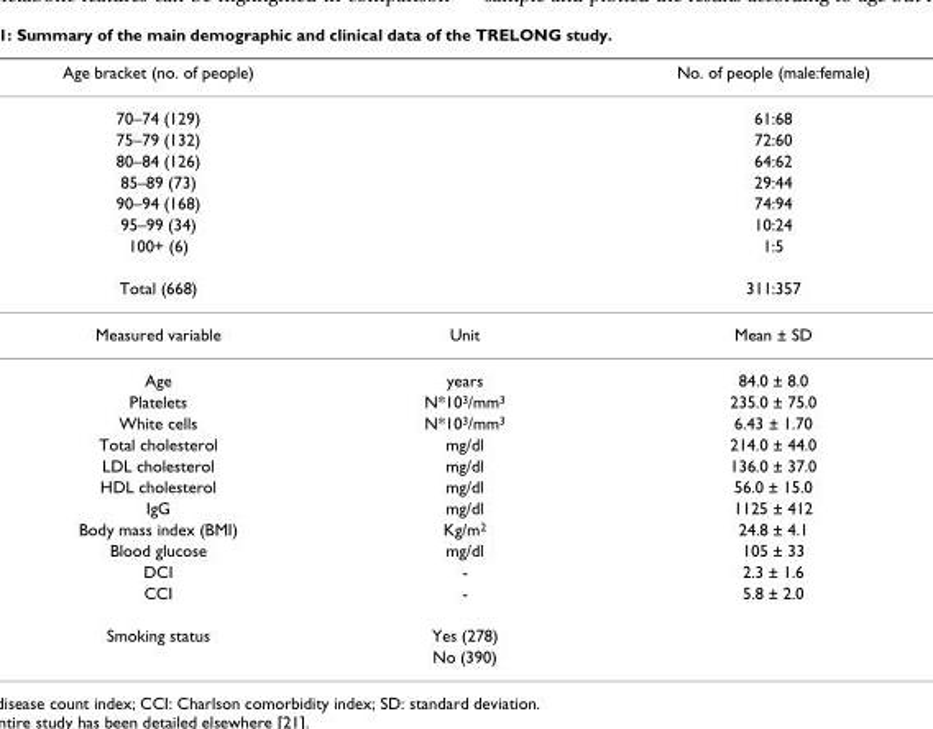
<table><thead><tr><td>Age bracket (no. of people)</td><td></td><td>No. of people (male:female)</td></tr></thead><tbody><tr><td>70–74 (129)</td><td></td><td>61:68</td></tr><tr><td>75–79 (132)</td><td></td><td>72:60</td></tr><tr><td>80–84 (126)</td><td></td><td>64:62</td></tr><tr><td>85–89 (73)</td><td></td><td>29:44</td></tr><tr><td>90–94 (168)</td><td></td><td>74:94</td></tr><tr><td>95–99 (34)</td><td></td><td>10:24</td></tr><tr><td>100+ (6)</td><td></td><td>1:5</td></tr><tr><td>Total (668)</td><td></td><td>311:357</td></tr><tr><td>Measured variable</td><td>Unit</td><td>Mean ± SD</td></tr><tr><td>Age</td><td>years</td><td>84.0 ± 8.0</td></tr><tr><td>Platelets</td><td>N*10<sup>3</sup>/mm<sup>3</sup></td><td>235.0 ± 75.0</td></tr><tr><td>White cells</td><td>N*10<sup>3</sup>/mm<sup>3</sup></td><td>6.43 ± 1.70</td></tr><tr><td>Total cholesterol</td><td>mg/dl</td><td>214.0 ± 44.0</td></tr><tr><td>LDL cholesterol</td><td>mg/dl</td><td>136.0 ± 37.0</td></tr><tr><td>HDL cholesterol</td><td>mg/dl</td><td>56.0 ± 15.0</td></tr><tr><td>IgG</td><td>mg/dl</td><td>1125 ± 412</td></tr><tr><td>Body mass index (BMI)</td><td>Kg/m<sup>2</sup></td><td>24.8 ± 4.1</td></tr><tr><td>Blood glucose</td><td>mg/dl</td><td>105 ± 33</td></tr><tr><td>DCI</td><td>-</td><td>2.3 ± 1.6</td></tr><tr><td>CCI</td><td>-</td><td>5.8 ± 2.0</td></tr><tr><td rowspan="2">Smoking status</td><td>Yes (278)</td><td></td></tr><tr><td>No (390)</td><td></td></tr></tbody></table>